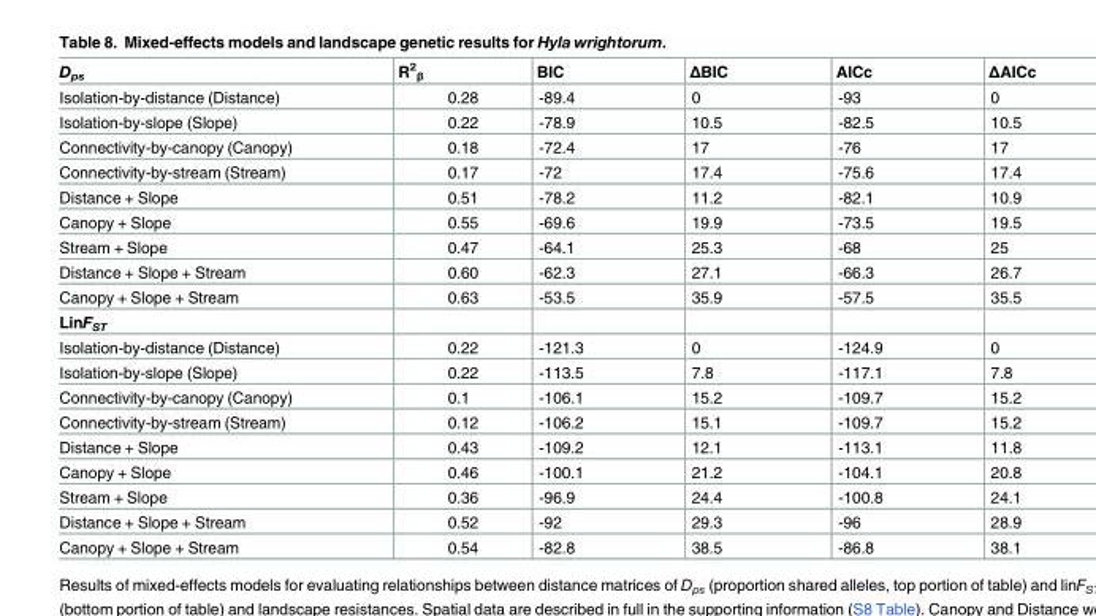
<table><thead><tr><td>D<sub>ps</sub></td><td>R<sup>2</sup> <sub>β</sub></td><td>BIC</td><td>ΔBIC</td><td>AICc</td><td>ΔAICc</td></tr></thead><tbody><tr><td>Isolation-by-distance (Distance)</td><td>0.28</td><td>-89.4</td><td>0</td><td>-93</td><td>0</td></tr><tr><td>Isolation-by-slope (Slope)</td><td>0.22</td><td>-78.9</td><td>10.5</td><td>-82.5</td><td>10.5</td></tr><tr><td>Connectivity-by-canopy (Canopy)</td><td>0.18</td><td>-72.4</td><td>17</td><td>-76</td><td>17</td></tr><tr><td>Connectivity-by-stream (Stream)</td><td>0.17</td><td>-72</td><td>17.4</td><td>-75.6</td><td>17.4</td></tr><tr><td>Distance + Slope</td><td>0.51</td><td>-78.2</td><td>11.2</td><td>-82.1</td><td>10.9</td></tr><tr><td>Canopy + Slope</td><td>0.55</td><td>-69.6</td><td>19.9</td><td>-73.5</td><td>19.5</td></tr><tr><td>Stream + Slope</td><td>0.47</td><td>-64.1</td><td>25.3</td><td>-68</td><td>25</td></tr><tr><td>Distance + Slope + Stream</td><td>0.60</td><td>-62.3</td><td>27.1</td><td>-66.3</td><td>26.7</td></tr><tr><td>Canopy + Slope + Stream</td><td>0.63</td><td>-53.5</td><td>35.9</td><td>-57.5</td><td>35.5</td></tr><tr><td colspan="6">LinF<sub>ST</sub></td></tr><tr><td>Isolation-by-distance (Distance)</td><td>0.22</td><td>-121.3</td><td>0</td><td>-124.9</td><td>0</td></tr><tr><td>Isolation-by-slope (Slope)</td><td>0.22</td><td>-113.5</td><td>7.8</td><td>-117.1</td><td>7.8</td></tr><tr><td>Connectivity-by-canopy (Canopy)</td><td>0.1</td><td>-106.1</td><td>15.2</td><td>-109.7</td><td>15.2</td></tr><tr><td>Connectivity-by-stream (Stream)</td><td>0.12</td><td>-106.2</td><td>15.1</td><td>-109.7</td><td>15.2</td></tr><tr><td>Distance + Slope</td><td>0.43</td><td>-109.2</td><td>12.1</td><td>-113.1</td><td>11.8</td></tr><tr><td>Canopy + Slope</td><td>0.46</td><td>-100.1</td><td>21.2</td><td>-104.1</td><td>20.8</td></tr><tr><td>Stream + Slope</td><td>0.36</td><td>-96.9</td><td>24.4</td><td>-100.8</td><td>24.1</td></tr><tr><td>Distance + Slope + Stream</td><td>0.52</td><td>-92</td><td>29.3</td><td>-96</td><td>28.9</td></tr><tr><td>Canopy + Slope + Stream</td><td>0.54</td><td>-82.8</td><td>38.5</td><td>-86.8</td><td>38.1</td></tr></tbody></table>